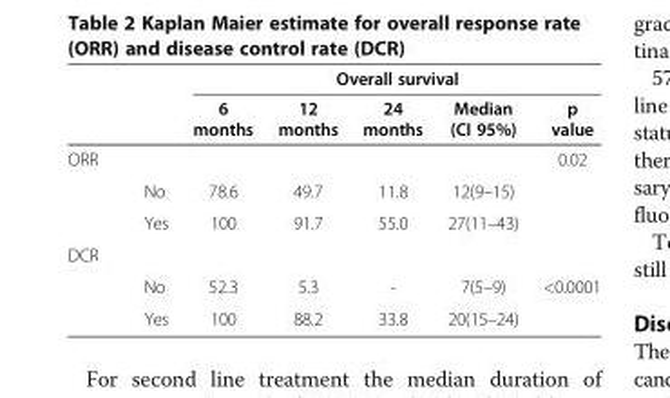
<table><thead><tr><td rowspan="2"></td><td colspan="5">Overall survival</td></tr><tr><td>6 months</td><td>12 months</td><td>24 months</td><td>Median (CI 95%)</td><td>p value</td></tr></thead><tbody><tr><td>ORR</td><td></td><td></td><td></td><td></td><td>0.02</td></tr><tr><td>No</td><td>78.6</td><td>49.7</td><td>11.8</td><td>12(9–15)</td><td></td></tr><tr><td>Yes</td><td>100</td><td>91.7</td><td>55.0</td><td>27(11–43)</td><td></td></tr><tr><td colspan="6">DCR</td></tr><tr><td>No</td><td>52.3</td><td>5.3</td><td>-</td><td>7(5–9)</td><td>&lt;0.0001</td></tr><tr><td>Yes</td><td>100</td><td>88.2</td><td>33.8</td><td>20(15–24)</td><td></td></tr></tbody></table>